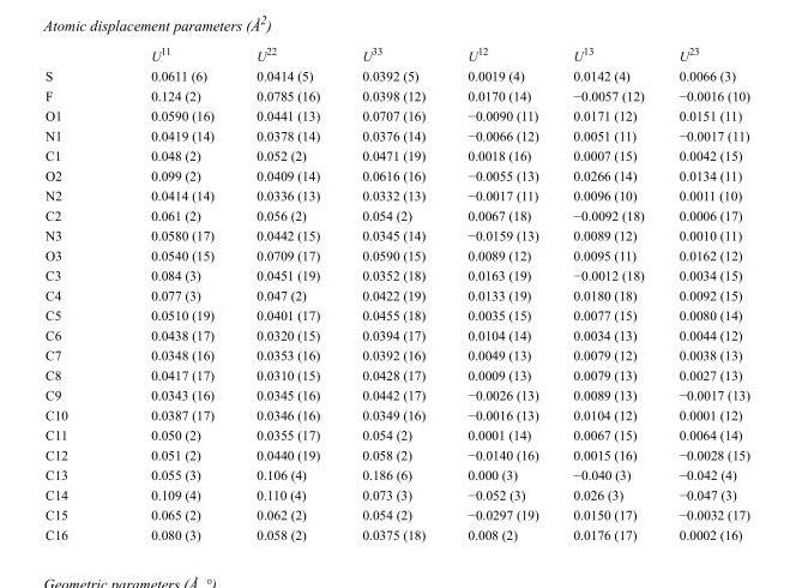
<table><thead><tr><td></td><td>U<sup>11</sup></td><td>U<sup>22</sup></td><td>U<sup>33</sup></td><td>U<sup>12</sup></td><td>U<sup>13</sup></td><td>U<sup>23</sup></td></tr></thead><tbody><tr><td>S</td><td>0.0611 (6)</td><td>0.0414 (5)</td><td>0.0392 (5)</td><td>0.0019 (4)</td><td>0.0142 (4)</td><td>0.0066 (3)</td></tr><tr><td>F</td><td>0.124 (2)</td><td>0.0785 (16)</td><td>0.0398 (12)</td><td>0.0170 (14)</td><td>−0.0057 (12)</td><td>−0.0016 (10)</td></tr><tr><td>O1</td><td>0.0590 (16)</td><td>0.0441 (13)</td><td>0.0707 (16)</td><td>−0.0090 (11)</td><td>0.0171 (12)</td><td>0.0151 (11)</td></tr><tr><td>N1</td><td>0.0419 (14)</td><td>0.0378 (14)</td><td>0.0376 (14)</td><td>−0.0066 (12)</td><td>0.0051 (11)</td><td>−0.0017 (11)</td></tr><tr><td>C1</td><td>0.048 (2)</td><td>0.052 (2)</td><td>0.0471 (19)</td><td>0.0018 (16)</td><td>0.0007 (15)</td><td>0.0042 (15)</td></tr><tr><td>O2</td><td>0.099 (2)</td><td>0.0409 (14)</td><td>0.0616 (16)</td><td>−0.0055 (13)</td><td>0.0266 (14)</td><td>0.0134 (11)</td></tr><tr><td>N2</td><td>0.0414 (14)</td><td>0.0336 (13)</td><td>0.0332 (13)</td><td>−0.0017 (11)</td><td>0.0096 (10)</td><td>0.0011 (10)</td></tr><tr><td>C2</td><td>0.061 (2)</td><td>0.056 (2)</td><td>0.054 (2)</td><td>0.0067 (18)</td><td>−0.0092 (18)</td><td>0.0006 (17)</td></tr><tr><td>N3</td><td>0.0580 (17)</td><td>0.0442 (15)</td><td>0.0345 (14)</td><td>−0.0159 (13)</td><td>0.0089 (12)</td><td>0.0010 (11)</td></tr><tr><td>O3</td><td>0.0540 (15)</td><td>0.0709 (17)</td><td>0.0590 (15)</td><td>0.0089 (12)</td><td>0.0095 (11)</td><td>0.0162 (12)</td></tr><tr><td>C3</td><td>0.084 (3)</td><td>0.0451 (19)</td><td>0.0352 (18)</td><td>0.0163 (19)</td><td>−0.0012 (18)</td><td>0.0034 (15)</td></tr><tr><td>C4</td><td>0.077 (3)</td><td>0.047 (2)</td><td>0.0422 (19)</td><td>0.0133 (19)</td><td>0.0180 (18)</td><td>0.0092 (15)</td></tr><tr><td>C5</td><td>0.0510 (19)</td><td>0.0401 (17)</td><td>0.0455 (18)</td><td>0.0035 (15)</td><td>0.0077 (15)</td><td>0.0080 (14)</td></tr><tr><td>C6</td><td>0.0438 (17)</td><td>0.0320 (15)</td><td>0.0394 (17)</td><td>0.0104 (14)</td><td>0.0034 (13)</td><td>0.0044 (12)</td></tr><tr><td>C7</td><td>0.0348 (16)</td><td>0.0353 (16)</td><td>0.0392 (16)</td><td>0.0049 (13)</td><td>0.0079 (12)</td><td>0.0038 (13)</td></tr><tr><td>C8</td><td>0.0417 (17)</td><td>0.0310 (15)</td><td>0.0428 (17)</td><td>0.0009 (13)</td><td>0.0079 (13)</td><td>0.0027 (13)</td></tr><tr><td>C9</td><td>0.0343 (16)</td><td>0.0345 (16)</td><td>0.0442 (17)</td><td>−0.0026 (13)</td><td>0.0089 (13)</td><td>−0.0017 (13)</td></tr><tr><td>C10</td><td>0.0387 (17)</td><td>0.0346 (16)</td><td>0.0349 (16)</td><td>−0.0016 (13)</td><td>0.0104 (12)</td><td>0.0001 (12)</td></tr><tr><td>C11</td><td>0.050 (2)</td><td>0.0355 (17)</td><td>0.054 (2)</td><td>0.0001 (14)</td><td>0.0067 (15)</td><td>0.0064 (14)</td></tr><tr><td>C12</td><td>0.051 (2)</td><td>0.0440 (19)</td><td>0.058 (2)</td><td>−0.0140 (16)</td><td>0.0015 (16)</td><td>−0.0028 (15)</td></tr><tr><td>C13</td><td>0.055 (3)</td><td>0.106 (4)</td><td>0.186 (6)</td><td>0.000 (3)</td><td>−0.040 (3)</td><td>−0.042 (4)</td></tr><tr><td>C14</td><td>0.109 (4)</td><td>0.110 (4)</td><td>0.073 (3)</td><td>−0.052 (3)</td><td>0.026 (3)</td><td>−0.047 (3)</td></tr><tr><td>C15</td><td>0.065 (2)</td><td>0.062 (2)</td><td>0.054 (2)</td><td>−0.0297 (19)</td><td>0.0150 (17)</td><td>−0.0032 (17)</td></tr><tr><td>C16</td><td>0.080 (3)</td><td>0.058 (2)</td><td>0.0375 (18)</td><td>0.008 (2)</td><td>0.0176 (17)</td><td>0.0002 (16)</td></tr></tbody></table>